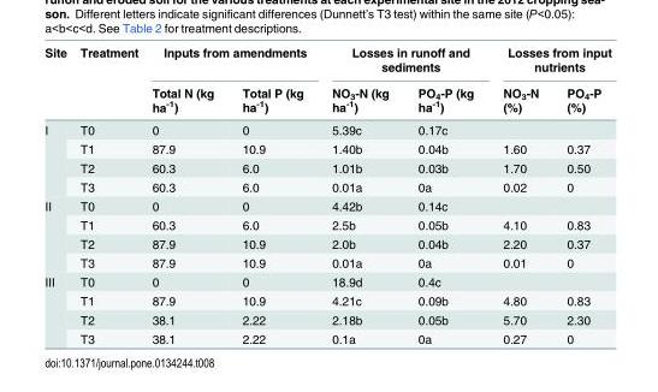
<table><thead><tr><td rowspan="2">Site</td><td rowspan="2">Treatment</td><td colspan="2">Inputs from amendments</td><td colspan="2">Losses in runoff and sediments</td><td colspan="2">Losses from input nutrients</td></tr><tr><td>Total N (kg ha<sup>-1</sup>)</td><td>Total P (kg ha<sup>-1</sup>)</td><td>NO<sub>3</sub>-N (kg ha<sup>-1</sup>)</td><td>PO<sub>4</sub>-P (kg ha<sup>-1</sup>)</td><td>NO<sub>3</sub>-N (%)</td><td>PO<sub>4</sub>-P (%)</td></tr></thead><tbody><tr><td rowspan="4">I</td><td>T0</td><td>0</td><td>0</td><td>5.39c</td><td>0.17c</td><td></td><td></td></tr><tr><td>T1</td><td>87.9</td><td>10.9</td><td>1.40b</td><td>0.04b</td><td>1.60</td><td>0.37</td></tr><tr><td>T2</td><td>60.3</td><td>6.0</td><td>1.01b</td><td>0.03b</td><td>1.70</td><td>0.50</td></tr><tr><td>T3</td><td>60.3</td><td>6.0</td><td>0.01a</td><td>0a</td><td>0.02</td><td>0</td></tr><tr><td rowspan="4">II</td><td>T0</td><td>0</td><td>0</td><td>4.42b</td><td>0.14c</td><td></td><td></td></tr><tr><td>T1</td><td>60.3</td><td>6.0</td><td>2.5b</td><td>0.05b</td><td>4.10</td><td>0.83</td></tr><tr><td>T2</td><td>87.9</td><td>10.9</td><td>2.0b</td><td>0.04b</td><td>2.20</td><td>0.37</td></tr><tr><td>T3</td><td>87.9</td><td>10.9</td><td>0.01a</td><td>0a</td><td>0.01</td><td>0</td></tr><tr><td rowspan="4">III</td><td>T0</td><td>0</td><td>0</td><td>18.9d</td><td>0.4c</td><td></td><td></td></tr><tr><td>T1</td><td>87.9</td><td>10.9</td><td>4.21c</td><td>0.09b</td><td>4.80</td><td>0.83</td></tr><tr><td>T2</td><td>38.1</td><td>2.22</td><td>2.18b</td><td>0.05b</td><td>5.70</td><td>2.30</td></tr><tr><td>T3</td><td>38.1</td><td>2.22</td><td>0.1a</td><td>0a</td><td>0.27</td><td>0</td></tr></tbody></table>